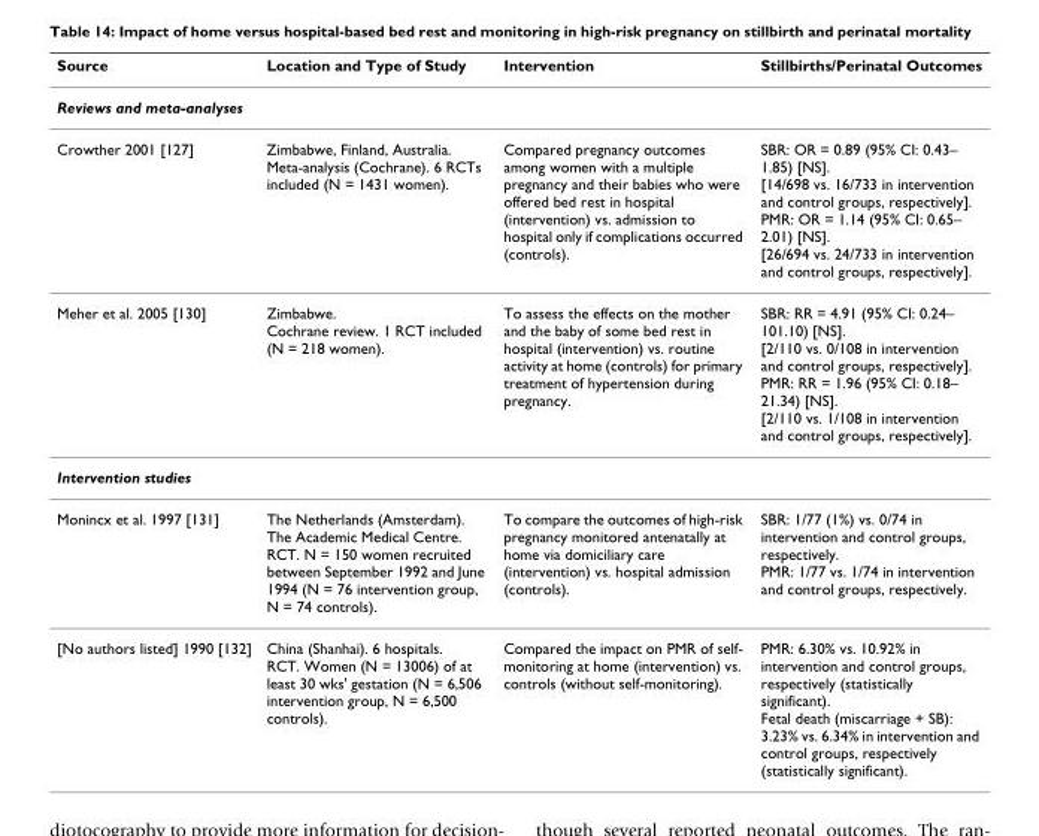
<table><thead><tr><td>Source</td><td>Location and Type of Study</td><td>Intervention</td><td>Stillbirths/Perinatal Outcomes</td></tr></thead><tbody><tr><td colspan="4">Reviews and meta-analyses</td></tr><tr><td>Crowther 2001 [127]</td><td>Zimbabwe, Finland, Australia. Meta-analysis (Cochrane). 6 RCTs included (N = 1431 women).</td><td>Compared pregnancy outcomes among women with a multiple pregnancy and their babies who were offered bed rest in hospital (intervention) vs. admission to hospital only if complications occurred (controls).</td><td>SBR: OR = 0.89 (95% CI: 0.43– 1.85) [NS]. [14/698 vs. 16/733 in intervention and control groups, respectively]. PMR: OR = 1.14 (95% CI: 0.65– 2.01) [NS]. [26/694 vs. 24/733 in intervention and control groups, respectively].</td></tr><tr><td>Meher et al. 2005 [130]</td><td>Zimbabwe. Cochrane review. 1 RCT included (N = 218 women).</td><td>To assess the effects on the mother and the baby of some bed rest in hospital (intervention) vs. routine activity at home (controls) for primary treatment of hypertension during pregnancy.</td><td>SBR: RR = 4.91 (95% CI: 0.24– 101.10) [NS]. [2/110 vs. 0/108 in intervention and control groups, respectively]. PMR: RR = 1.96 (95% CI: 0.18– 21.34) [NS]. [2/110 vs. 1/108 in intervention and control groups, respectively].</td></tr><tr><td colspan="4">Intervention studies</td></tr><tr><td>Monincx et al. 1997 [131]</td><td>The Netherlands (Amsterdam). The Academic Medical Centre. RCT. N = 150 women recruited between September 1992 and June 1994 (N = 76 intervention group, N = 74 controls).</td><td>To compare the outcomes of high-risk pregnancy monitored antenatally at home via domiciliary care (intervention) vs. hospital admission (controls).</td><td>SBR: 1/77 (1%) vs. 0/74 in intervention and control groups, respectively. PMR: 1/77 vs. 1/74 in intervention and control groups, respectively.</td></tr><tr><td>[No authors listed] 1990 [132]</td><td>China (Shanhai). 6 hospitals. RCT. Women (N = 13006) of at least 30 wks&#x27; gestation (N = 6,506 intervention group, N = 6,500 controls).</td><td>Compared the impact on PMR of self- monitoring at home (intervention) vs. controls (without self-monitoring).</td><td>PMR: 6.30% vs. 10.92% in intervention and control groups, respectively (statistically significant). Fetal death (miscarriage + SB): 3.23% vs. 6.34% in intervention and control groups, respectively (statistically significant).</td></tr></tbody></table>